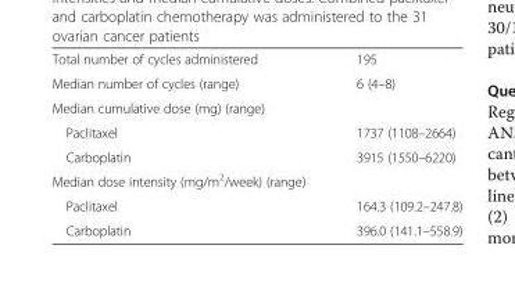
<table><tbody><tr><td>Total number of cycles administered</td><td>195</td></tr><tr><td>Median number of cycles (range)</td><td>6 (4–8)</td></tr><tr><td colspan="2">Median cumulative dose (mg) (range)</td></tr><tr><td>Paclitaxel</td><td>1737 (1108–2664)</td></tr><tr><td>Carboplatin</td><td>3915 (1550–6220)</td></tr><tr><td colspan="2">Median dose intensity (mg/m<sup>2</sup>/week) (range)</td></tr><tr><td>Paclitaxel</td><td>164.3 (109.2–247.8)</td></tr><tr><td>Carboplatin</td><td>396.0 (141.1–558.9)</td></tr></tbody></table>